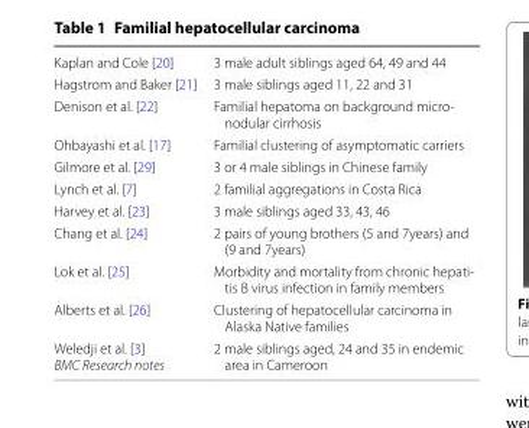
<table><tbody><tr><td>Kaplan and Cole [20]</td><td>3 male adult siblings aged 64, 49 and 44</td></tr><tr><td>Hagstrom and Baker [21]</td><td>3 male siblings aged 11, 22 and 31</td></tr><tr><td>Denison et al. [22]</td><td>Familial hepatoma on background micro- nodular cirrhosis</td></tr><tr><td>Ohbayashi et al. [17]</td><td>Familial clustering of asymptomatic carriers</td></tr><tr><td>Gilmore et al. [29]</td><td>3 or 4 male siblings in Chinese family</td></tr><tr><td>Lynch et al. [7]</td><td>2 familial aggregations in Costa Rica</td></tr><tr><td>Harvey et al. [23]</td><td>3 male siblings aged 33, 43, 46</td></tr><tr><td>Chang et al. [24]</td><td>2 pairs of young brothers (5 and 7years) and (9 and 7years)</td></tr><tr><td>Lok et al. [25]</td><td>Morbidity and mortality from chronic hepati- tis B virus infection in family members</td></tr><tr><td>Alberts et al. [26]</td><td>Clustering of hepatocellular carcinoma in Alaska Native families</td></tr><tr><td>Weledji et al. [3] BMC Research notes</td><td>2 male siblings aged, 24 and 35 in endemic area in Cameroon</td></tr></tbody></table>